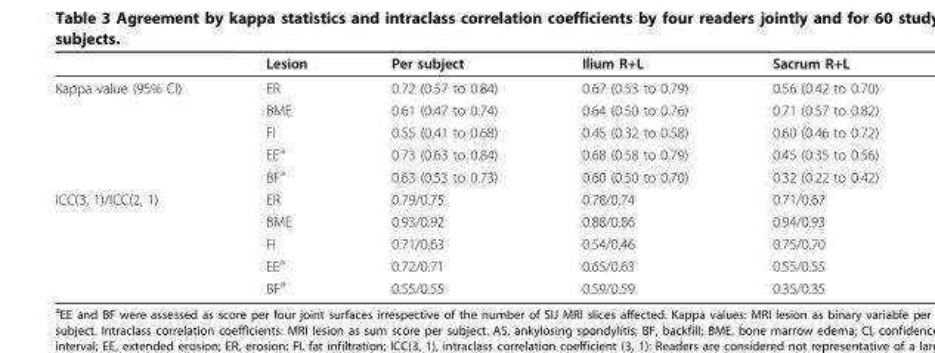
<table><thead><tr><td></td><td>Lesion</td><td>Per subject</td><td>Ilium R+L</td><td>Sacrum R+L</td></tr></thead><tbody><tr><td rowspan="5">Kappa value (95% CI)</td><td>ER</td><td>0.72 (0.57 to 0.84)</td><td>0.67 (0.53 to 0.79)</td><td>0.56 (0.42 to 0.70)</td></tr><tr><td>BME</td><td>0.61 (0.47 to 0.74)</td><td>0.64 (0.50 to 0.76)</td><td>0.71 (0.57 to 0.82)</td></tr><tr><td>FI</td><td>0.55 (0.41 to 0.68)</td><td>0.45 (0.32 to 0.58)</td><td>0.60 (0.46 to 0.72)</td></tr><tr><td>EE<sup>a</sup></td><td>0.73 (0.63 to 0.84)</td><td>0.68 (0.58 to 0.79)</td><td>0.45 (0.35 to 0.56)</td></tr><tr><td>BF<sup>a</sup></td><td>0.63 (0.53 to 0.73)</td><td>0.60 (0.50 to 0.70)</td><td>0.32 (0.22 to 0.42)</td></tr><tr><td rowspan="5">ICC(3, 1)/ICC(2, 1)</td><td>ER</td><td>0.79/0.75</td><td>0.78/0.74</td><td>0.71/0.67</td></tr><tr><td>BME</td><td>0.93/0.92</td><td>0.88/0.86</td><td>0.94/0.93</td></tr><tr><td>FI</td><td>0.71/0.63</td><td>0.54/0.46</td><td>0.75/0.70</td></tr><tr><td>EE<sup>a</sup></td><td>0.72/0.71</td><td>0.65/0.63</td><td>0.55/0.55</td></tr><tr><td>BF<sup>a</sup></td><td>0.55/0.55</td><td>0.59/0.59</td><td>0.35/0.35</td></tr></tbody></table>